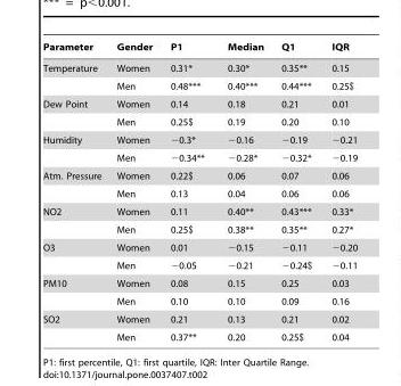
<table><thead><tr><td>Parameter</td><td>Gender</td><td>P1</td><td>Median</td><td>Q1</td><td>IQR</td></tr></thead><tbody><tr><td rowspan="2">Temperature</td><td>Women</td><td>0.31*</td><td>0.30*</td><td>0.35**</td><td>0.15</td></tr><tr><td>Men</td><td>0.48***</td><td>0.40***</td><td>0.44***</td><td>0.25$</td></tr><tr><td rowspan="2">Dew Point</td><td>Women</td><td>0.14</td><td>0.18</td><td>0.21</td><td>0.01</td></tr><tr><td>Men</td><td>0.25$</td><td>0.19</td><td>0.20</td><td>0.10</td></tr><tr><td rowspan="2">Humidity</td><td>Women</td><td>−0.3*</td><td>−0.16</td><td>−0.19</td><td>−0.21</td></tr><tr><td>Men</td><td>−0.34**</td><td>−0.28*</td><td>−0.32*</td><td>−0.19</td></tr><tr><td rowspan="2">Atm. Pressure</td><td>Women</td><td>0.22$</td><td>0.06</td><td>0.07</td><td>0.06</td></tr><tr><td>Men</td><td>0.13</td><td>0.04</td><td>0.06</td><td>0.06</td></tr><tr><td rowspan="2">NO2</td><td>Women</td><td>0.11</td><td>0.40**</td><td>0.43***</td><td>0.33*</td></tr><tr><td>Men</td><td>0.25$</td><td>0.38**</td><td>0.35**</td><td>0.27*</td></tr><tr><td rowspan="2">O3</td><td>Women</td><td>0.01</td><td>−0.15</td><td>−0.11</td><td>−0.20</td></tr><tr><td>Men</td><td>−0.05</td><td>−0.21</td><td>−0.24$</td><td>−0.11</td></tr><tr><td rowspan="2">PM10</td><td>Women</td><td>0.08</td><td>0.15</td><td>0.25</td><td>0.03</td></tr><tr><td>Men</td><td>0.10</td><td>0.10</td><td>0.09</td><td>0.16</td></tr><tr><td rowspan="2">SO2</td><td>Women</td><td>0.21</td><td>0.13</td><td>0.21</td><td>0.02</td></tr><tr><td>Men</td><td>0.37**</td><td>0.20</td><td>0.25$</td><td>0.04</td></tr></tbody></table>